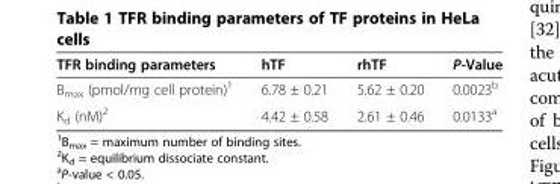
<table><thead><tr><td>TFR binding parameters</td><td>hTF</td><td>rhTF</td><td>P-Value</td></tr></thead><tbody><tr><td>B<sub>max</sub> (pmol/mg cell protein)<sup>1</sup></td><td>6.78 ± 0.21</td><td>5.62 ± 0.20</td><td>0.0023<sup>b</sup></td></tr><tr><td>K<sub>d</sub> (nM)<sup>2</sup></td><td>4.42 ± 0.58</td><td>2.61 ± 0.46</td><td>0.0133<sup>a</sup></td></tr></tbody></table>